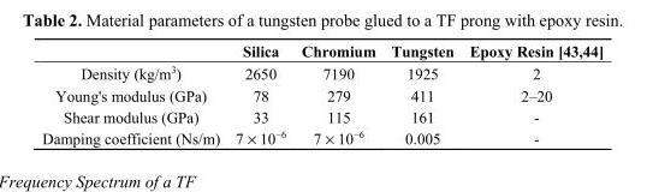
<table><thead><tr><td></td><td>Silica</td><td>Chromium</td><td>Tungsten</td><td>Epoxy Resin [43,44]</td></tr></thead><tbody><tr><td>Density (kg/m<sup>3</sup>)</td><td>2650</td><td>7190</td><td>1925</td><td>2</td></tr><tr><td>Young&#x27;s modulus (GPa)</td><td>78</td><td>279</td><td>411</td><td>2–20</td></tr><tr><td>Shear modulus (GPa)</td><td>33</td><td>115</td><td>161</td><td>-</td></tr><tr><td>Damping coefficient (Ns/m)</td><td>7 × 10<sup>−6</sup></td><td>7 × 10<sup>−6</sup></td><td>0.005</td><td>-</td></tr></tbody></table>